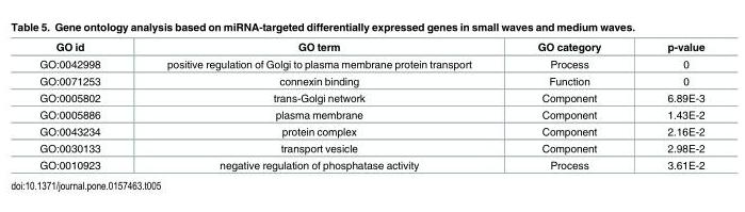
<table><thead><tr><td>GO id</td><td>GO term</td><td>GO category</td><td>p-value</td></tr></thead><tbody><tr><td>GO:0042998</td><td>positive regulation of Golgi to plasma membrane protein transport</td><td>Process</td><td>0</td></tr><tr><td>GO:0071253</td><td>connexin binding</td><td>Function</td><td>0</td></tr><tr><td>GO:0005802</td><td>trans-Golgi network</td><td>Component</td><td>6.89E-3</td></tr><tr><td>GO:0005886</td><td>plasma membrane</td><td>Component</td><td>1.43E-2</td></tr><tr><td>GO:0043234</td><td>protein complex</td><td>Component</td><td>2.16E-2</td></tr><tr><td>GO:0030133</td><td>transport vesicle</td><td>Component</td><td>2.98E-2</td></tr><tr><td>GO:0010923</td><td>negative regulation of phosphatase activity</td><td>Process</td><td>3.61E-2</td></tr></tbody></table>